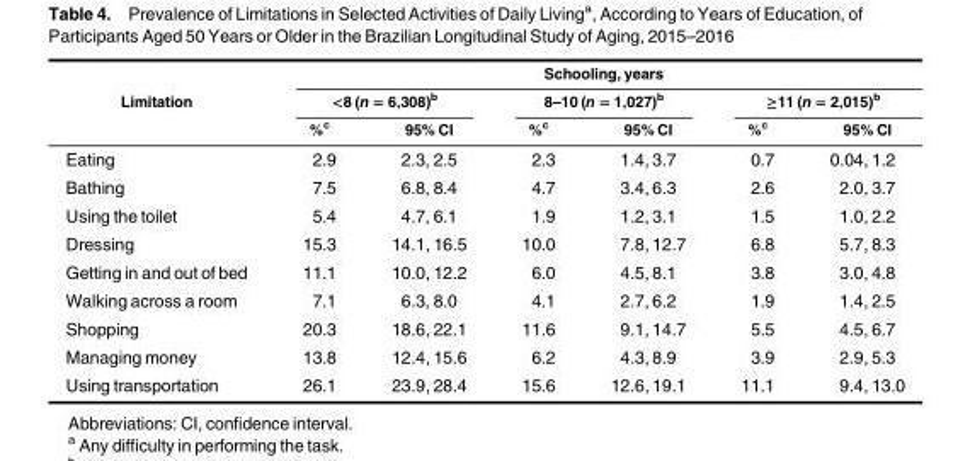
<table><thead><tr><td rowspan="3">Limitation</td><td colspan="6">Schooling, years</td></tr><tr><td colspan="2">&lt;8 (n = 6,308)<sup>b</sup></td><td colspan="2">8–10 (n = 1,027)<sup>b</sup></td><td colspan="2">≥11 (n = 2,015)<sup>b</sup></td></tr><tr><td>%<sup>c</sup></td><td>95% CI</td><td>%<sup>c</sup></td><td>95% CI</td><td>%<sup>c</sup></td><td>95% CI</td></tr></thead><tbody><tr><td>Eating</td><td>2.9</td><td>2.3, 2.5</td><td>2.3</td><td>1.4, 3.7</td><td>0.7</td><td>0.04, 1.2</td></tr><tr><td>Bathing</td><td>7.5</td><td>6.8, 8.4</td><td>4.7</td><td>3.4, 6.3</td><td>2.6</td><td>2.0, 3.7</td></tr><tr><td>Using the toilet</td><td>5.4</td><td>4.7, 6.1</td><td>1.9</td><td>1.2, 3.1</td><td>1.5</td><td>1.0, 2.2</td></tr><tr><td>Dressing</td><td>15.3</td><td>14.1, 16.5</td><td>10.0</td><td>7.8, 12.7</td><td>6.8</td><td>5.7, 8.3</td></tr><tr><td>Getting in and out of bed</td><td>11.1</td><td>10.0, 12.2</td><td>6.0</td><td>4.5, 8.1</td><td>3.8</td><td>3.0, 4.8</td></tr><tr><td>Walking across a room</td><td>7.1</td><td>6.3, 8.0</td><td>4.1</td><td>2.7, 6.2</td><td>1.9</td><td>1.4, 2.5</td></tr><tr><td>Shopping</td><td>20.3</td><td>18.6, 22.1</td><td>11.6</td><td>9.1, 14.7</td><td>5.5</td><td>4.5, 6.7</td></tr><tr><td>Managing money</td><td>13.8</td><td>12.4, 15.6</td><td>6.2</td><td>4.3, 8.9</td><td>3.9</td><td>2.9, 5.3</td></tr><tr><td>Using transportation</td><td>26.1</td><td>23.9, 28.4</td><td>15.6</td><td>12.6, 19.1</td><td>11.1</td><td>9.4, 13.0</td></tr></tbody></table>